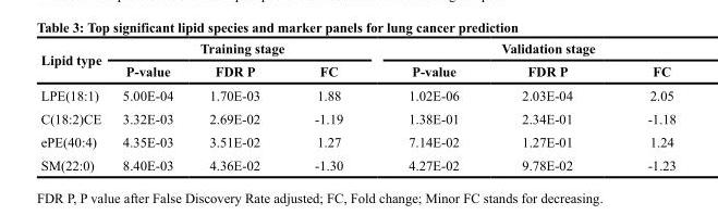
<table><thead><tr><td rowspan="2">Lipid type</td><td colspan="3">Training stage</td><td colspan="3">Validation stage</td></tr><tr><td>P-value</td><td>FDR P</td><td>FC</td><td>P-value</td><td>FDR P</td><td>FC</td></tr></thead><tbody><tr><td>LPE(18:1)</td><td>5.00E-04</td><td>1.70E-03</td><td>1.88</td><td>1.02E-06</td><td>2.03E-04</td><td>2.05</td></tr><tr><td>C(18:2)CE</td><td>3.32E-03</td><td>2.69E-02</td><td>-1.19</td><td>1.38E-01</td><td>2.34E-01</td><td>-1.18</td></tr><tr><td>ePE(40:4)</td><td>4.35E-03</td><td>3.51E-02</td><td>1.27</td><td>7.14E-02</td><td>1.27E-01</td><td>1.24</td></tr><tr><td>SM(22:0)</td><td>8.40E-03</td><td>4.36E-02</td><td>-1.30</td><td>4.27E-02</td><td>9.78E-02</td><td>-1.23</td></tr></tbody></table>